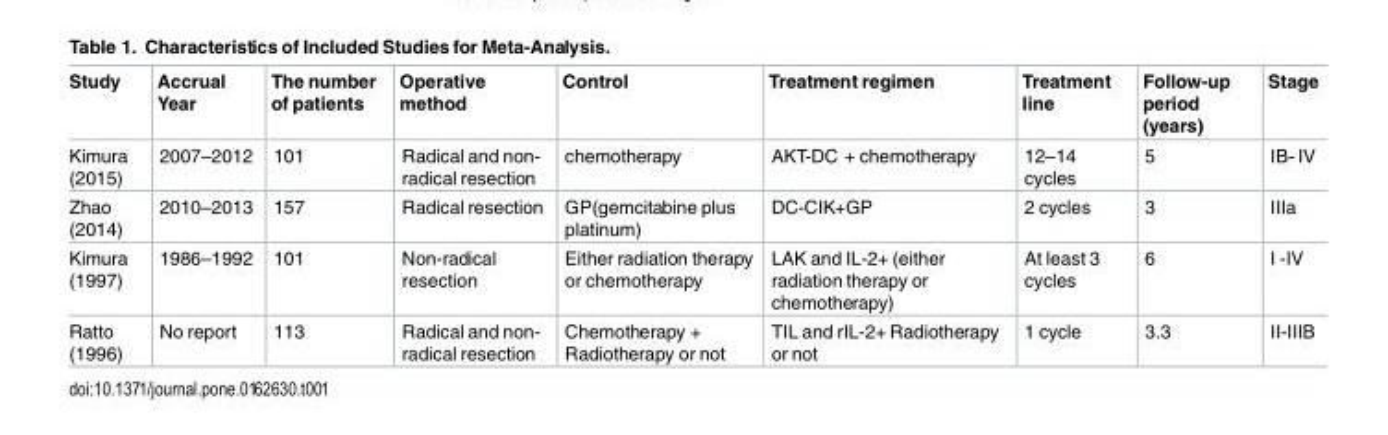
<table><thead><tr><td>Study</td><td>Accrual Year</td><td>The number of patients</td><td>Operative method</td><td>Control</td><td>Treatment regimen</td><td>Treatment line</td><td>Follow-up period (years)</td><td>Stage</td></tr></thead><tbody><tr><td>Kimura (2015)</td><td>2007–2012</td><td>101</td><td>Radical and non- radical resection</td><td>chemotherapy</td><td>AKT-DC + chemotherapy</td><td>12–14 cycles</td><td>5</td><td>IB- IV</td></tr><tr><td>Zhao (2014)</td><td>2010–2013</td><td>157</td><td>Radical resection</td><td>GP(gemcitabine plus platinum)</td><td>DC-CIK+GP</td><td>2 cycles</td><td>3</td><td>IIIa</td></tr><tr><td>Kimura (1997)</td><td>1986–1992</td><td>101</td><td>Non-radical resection</td><td>Either radiation therapy or chemotherapy</td><td>LAK and IL-2+ (either radiation therapy or chemotherapy)</td><td>At least 3 cycles</td><td>6</td><td>I -IV</td></tr><tr><td>Ratto (1996)</td><td>No report</td><td>113</td><td>Radical and non- radical resection</td><td>Chemotherapy + Radiotherapy or not</td><td>TIL and rIL-2+ Radiotherapy or not</td><td>1 cycle</td><td>3.3</td><td>II-IIIB</td></tr></tbody></table>